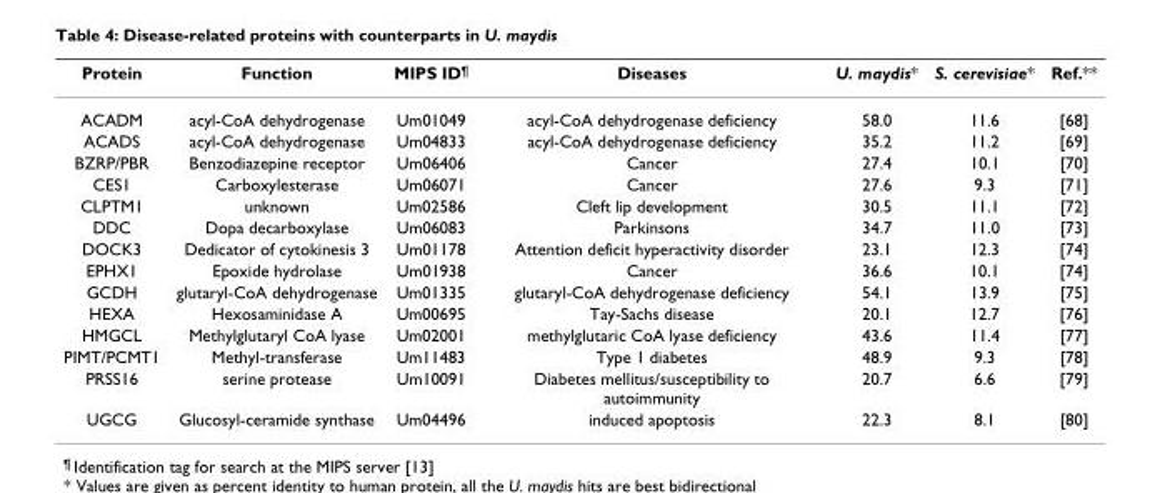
<table><thead><tr><td>Protein</td><td>Function</td><td>MIPS ID<sup>¶</sup></td><td>Diseases</td><td>U. maydis*</td><td>S. cerevisiae*</td><td>Ref.**</td></tr></thead><tbody><tr><td>ACADM</td><td>acyl-CoA dehydrogenase</td><td>Um01049</td><td>acyl-CoA dehydrogenase deficiency</td><td>58.0</td><td>11.6</td><td>[68]</td></tr><tr><td>ACADS</td><td>acyl-CoA dehydrogenase</td><td>Um04833</td><td>acyl-CoA dehydrogenase deficiency</td><td>35.2</td><td>11.2</td><td>[69]</td></tr><tr><td>BZRP/PBR</td><td>Benzodiazepine receptor</td><td>Um06406</td><td>Cancer</td><td>27.4</td><td>10.1</td><td>[70]</td></tr><tr><td>CES1</td><td>Carboxylesterase</td><td>Um06071</td><td>Cancer</td><td>27.6</td><td>9.3</td><td>[71]</td></tr><tr><td>CLPTM1</td><td>unknown</td><td>Um02586</td><td>Cleft lip development</td><td>30.5</td><td>11.1</td><td>[72]</td></tr><tr><td>DDC</td><td>Dopa decarboxylase</td><td>Um06083</td><td>Parkinsons</td><td>34.7</td><td>11.0</td><td>[73]</td></tr><tr><td>DOCK3</td><td>Dedicator of cytokinesis 3</td><td>Um01178</td><td>Attention deficit hyperactivity disorder</td><td>23.1</td><td>12.3</td><td>[74]</td></tr><tr><td>EPHX1</td><td>Epoxide hydrolase</td><td>Um01938</td><td>Cancer</td><td>36.6</td><td>10.1</td><td>[74]</td></tr><tr><td>GCDH</td><td>glutaryl-CoA dehydrogenase</td><td>Um01335</td><td>glutaryl-CoA dehydrogenase deficiency</td><td>54.1</td><td>13.9</td><td>[75]</td></tr><tr><td>HEXA</td><td>Hexosaminidase A</td><td>Um00695</td><td>Tay-Sachs disease</td><td>20.1</td><td>12.7</td><td>[76]</td></tr><tr><td>HMGCL</td><td>Methylglutaryl CoA lyase</td><td>Um02001</td><td>methylglutaric CoA lyase deficiency</td><td>43.6</td><td>11.4</td><td>[77]</td></tr><tr><td>PIMT/PCMT1</td><td>Methyl-transferase</td><td>Um11483</td><td>Type 1 diabetes</td><td>48.9</td><td>9.3</td><td>[78]</td></tr><tr><td>PRSS16</td><td>serine protease</td><td>Um10091</td><td>Diabetes mellitus/susceptibility to autoimmunity</td><td>20.7</td><td>6.6</td><td>[79]</td></tr><tr><td>UGCG</td><td>Glucosyl-ceramide synthase</td><td>Um04496</td><td>induced apoptosis</td><td>22.3</td><td>8.1</td><td>[80]</td></tr></tbody></table>